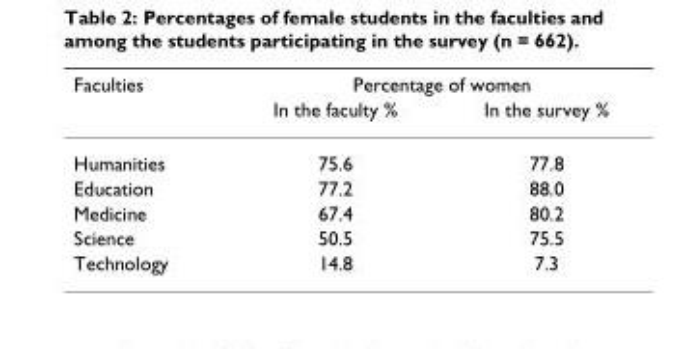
<table><thead><tr><td rowspan="2">Faculties</td><td colspan="2">Percentage of women</td></tr><tr><td>In the faculty %</td><td>In the survey %</td></tr></thead><tbody><tr><td>Humanities</td><td>75.6</td><td>77.8</td></tr><tr><td>Education</td><td>77.2</td><td>88.0</td></tr><tr><td>Medicine</td><td>67.4</td><td>80.2</td></tr><tr><td>Science</td><td>50.5</td><td>75.5</td></tr><tr><td>Technology</td><td>14.8</td><td>7.3</td></tr></tbody></table>